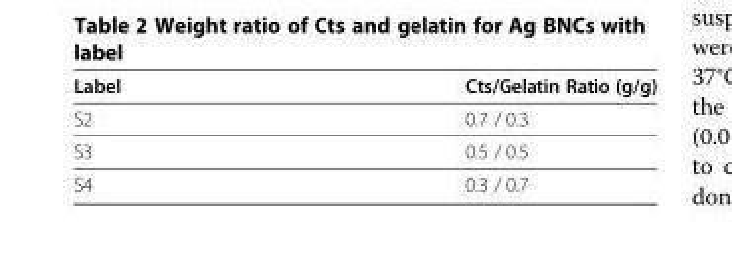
<table><thead><tr><td>Label</td><td>Cts/Gelatin Ratio (g/g)</td></tr></thead><tbody><tr><td>S2</td><td>0.7 / 0.3</td></tr><tr><td>S3</td><td>0.5 / 0.5</td></tr><tr><td>S4</td><td>0.3 / 0.7</td></tr></tbody></table>